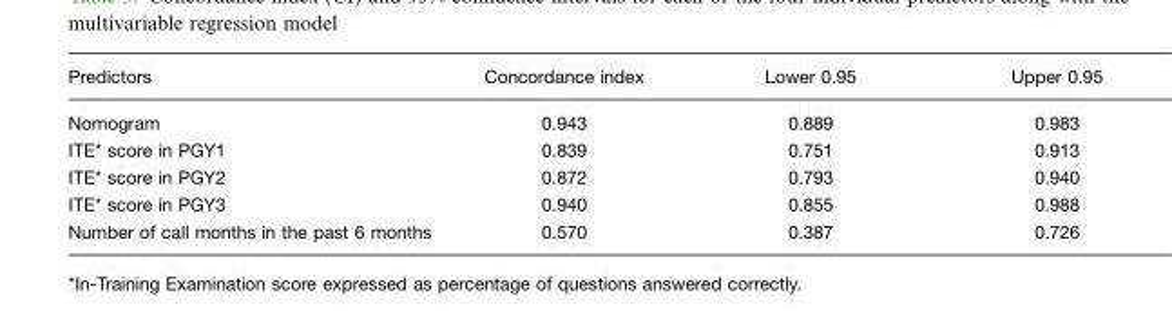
<table><thead><tr><td>Predictors</td><td>Concordance index</td><td>Lower 0.95</td><td>Upper 0.95</td></tr></thead><tbody><tr><td>Nomogram</td><td>0.943</td><td>0.889</td><td>0.983</td></tr><tr><td>ITE* score in PGY1</td><td>0.839</td><td>0.751</td><td>0.913</td></tr><tr><td>ITE* score in PGY2</td><td>0.872</td><td>0.793</td><td>0.940</td></tr><tr><td>ITE* score in PGY3</td><td>0.940</td><td>0.855</td><td>0.988</td></tr><tr><td>Number of call months in the past 6 months</td><td>0.570</td><td>0.387</td><td>0.726</td></tr></tbody></table>